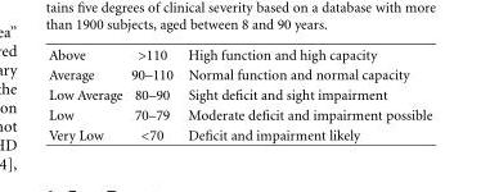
<table><tbody><tr><td>Above</td><td>&gt;110</td><td>High function and high capacity</td></tr><tr><td>Average</td><td>90–110</td><td>Normal function and normal capacity</td></tr><tr><td>Low Average</td><td>80–90</td><td>Sight deficit and sight impairment</td></tr><tr><td>Low</td><td>70–79</td><td>Moderate deficit and impairment possible</td></tr><tr><td>Very Low</td><td>&lt;70</td><td>Deficit and impairment likely</td></tr></tbody></table>